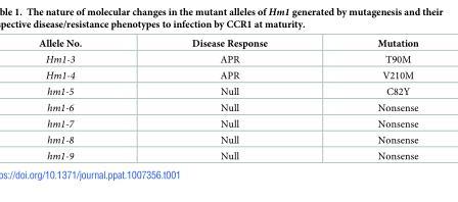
<table><thead><tr><td>Allele No.</td><td>Disease Response</td><td>Mutation</td></tr></thead><tbody><tr><td>Hm1-3</td><td>APR</td><td>T90M</td></tr><tr><td>Hm1-4</td><td>APR</td><td>V210M</td></tr><tr><td>hm1-5</td><td>Null</td><td>C82Y</td></tr><tr><td>hm1-6</td><td>Null</td><td>Nonsense</td></tr><tr><td>hm1-7</td><td>Null</td><td>Nonsense</td></tr><tr><td>hm1-8</td><td>Null</td><td>Nonsense</td></tr><tr><td>hm1-9</td><td>Null</td><td>Nonsense</td></tr></tbody></table>